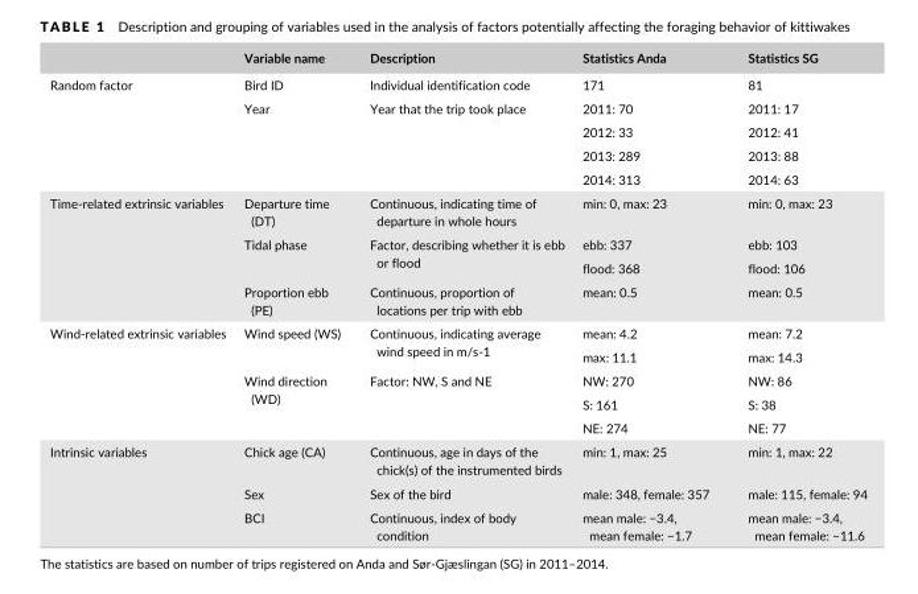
<table><thead><tr><td></td><td>Variable name</td><td>Description</td><td>Statistics Anda</td><td>Statistics SG</td></tr></thead><tbody><tr><td rowspan="5">Random factor</td><td>Bird ID</td><td>Individual identification code</td><td>171</td><td>81</td></tr><tr><td rowspan="4">Year</td><td rowspan="4">Year that the trip took place</td><td>2011: 70</td><td>2011: 17</td></tr><tr><td>2012: 33</td><td>2012: 41</td></tr><tr><td>2013: 289</td><td>2013: 88</td></tr><tr><td>2014: 313</td><td>2014: 63</td></tr><tr><td rowspan="4">Time- related extrinsic variables</td><td>Departure time (DT)</td><td>Continuous, indicating time of departure in whole hours</td><td>min: 0, max: 23</td><td>min: 0, max: 23</td></tr><tr><td rowspan="2">Tidal phase</td><td rowspan="2">Factor, describing whether it is ebb or flood</td><td>ebb: 337</td><td>ebb: 103</td></tr><tr><td>flood: 368</td><td>flood: 106</td></tr><tr><td>Proportion ebb (PE)</td><td>Continuous, proportion of locations per trip with ebb</td><td>mean: 0.5</td><td>mean: 0.5</td></tr><tr><td rowspan="5">Wind- related extrinsic variables</td><td rowspan="2">Wind speed (WS)</td><td rowspan="2">Continuous, indicating average wind speed in m/s- 1</td><td>mean: 4.2</td><td>mean: 7.2</td></tr><tr><td>max: 11.1</td><td>max: 14.3</td></tr><tr><td rowspan="3">Wind direction (WD)</td><td rowspan="3">Factor: NW, S and NE</td><td>NW: 270</td><td>NW: 86</td></tr><tr><td>S: 161</td><td>S: 38</td></tr><tr><td>NE: 274</td><td>NE: 77</td></tr><tr><td rowspan="3">Intrinsic variables</td><td>Chick age (CA)</td><td>Continuous, age in days of the chick(s) of the instrumented birds</td><td>min: 1, max: 25</td><td>min: 1, max: 22</td></tr><tr><td>Sex</td><td>Sex of the bird</td><td>male: 348, female: 357</td><td>male: 115, female: 94</td></tr><tr><td>BCI</td><td>Continuous, index of body condition</td><td>mean male: −3.4, mean female: −1.7</td><td>mean male: −3.4, mean female: −11.6</td></tr></tbody></table>